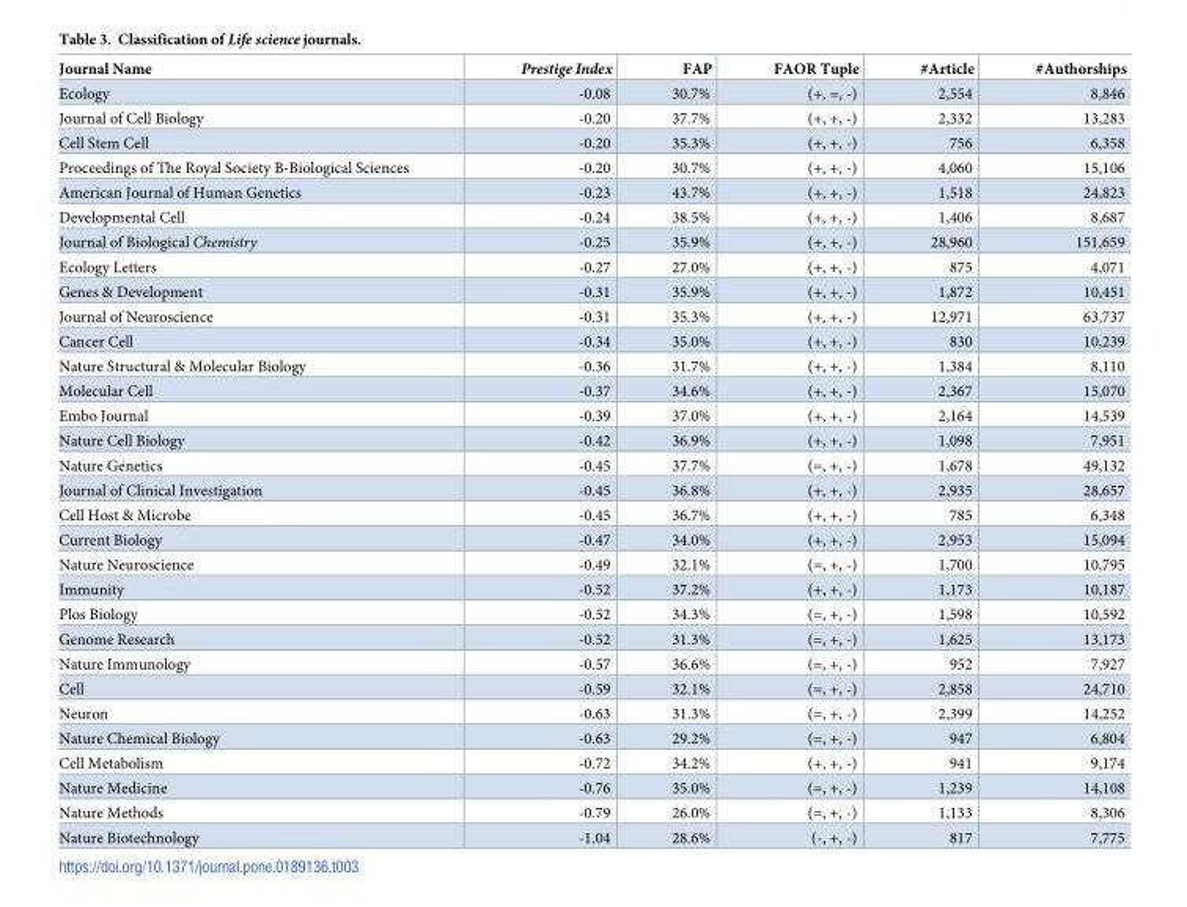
<table><thead><tr><td>Journal Name</td><td>Prestige Index</td><td>FAP</td><td>FAOR Tuple</td><td>#Article</td><td>#Authorships</td></tr></thead><tbody><tr><td>Ecology</td><td>-0.08</td><td>30.7%</td><td>(+, =, -)</td><td>2,554</td><td>8,846</td></tr><tr><td>Journal of Cell Biology</td><td>-0.20</td><td>37.7%</td><td>(+, +, -)</td><td>2,332</td><td>13,283</td></tr><tr><td>Cell Stem Cell</td><td>-0.20</td><td>35.3%</td><td>(+, +, -)</td><td>756</td><td>6,358</td></tr><tr><td>Proceedings of The Royal Society B-Biological Sciences</td><td>-0.20</td><td>30.7%</td><td>(+, +, -)</td><td>4,060</td><td>15,106</td></tr><tr><td>American Journal of Human Genetics</td><td>-0.23</td><td>43.7%</td><td>(+, +, -)</td><td>1,518</td><td>24,823</td></tr><tr><td>Developmental Cell</td><td>-0.24</td><td>38.5%</td><td>(+, +, -)</td><td>1,406</td><td>8,687</td></tr><tr><td>Journal of Biological Chemistry</td><td>-0.25</td><td>35.9%</td><td>(+, +, -)</td><td>28,960</td><td>151,659</td></tr><tr><td>Ecology Letters</td><td>-0.27</td><td>27.0%</td><td>(+, +, -)</td><td>875</td><td>4,071</td></tr><tr><td>Genes &amp; Development</td><td>-0.31</td><td>35.9%</td><td>(+, +, -)</td><td>1,872</td><td>10,451</td></tr><tr><td>Journal of Neuroscience</td><td>-0.31</td><td>35.3%</td><td>(+, +, -)</td><td>12,971</td><td>63,737</td></tr><tr><td>Cancer Cell</td><td>-0.34</td><td>35.0%</td><td>(+, +, -)</td><td>830</td><td>10,239</td></tr><tr><td>Nature Structural &amp; Molecular Biology</td><td>-0.36</td><td>31.7%</td><td>(+, +, -)</td><td>1,384</td><td>8,110</td></tr><tr><td>Molecular Cell</td><td>-0.37</td><td>34.6%</td><td>(+, +, -)</td><td>2,367</td><td>15,070</td></tr><tr><td>Embo Journal</td><td>-0.39</td><td>37.0%</td><td>(+, +, -)</td><td>2,164</td><td>14,539</td></tr><tr><td>Nature Cell Biology</td><td>-0.42</td><td>36.9%</td><td>(+, +, -)</td><td>1,098</td><td>7,951</td></tr><tr><td>Nature Genetics</td><td>-0.45</td><td>37.7%</td><td>(=, +, -)</td><td>1,678</td><td>49,132</td></tr><tr><td>Journal of Clinical Investigation</td><td>-0.45</td><td>36.8%</td><td>(+, +, -)</td><td>2,935</td><td>28,657</td></tr><tr><td>Cell Host &amp; Microbe</td><td>-0.45</td><td>36.7%</td><td>(+, +, -)</td><td>785</td><td>6,348</td></tr><tr><td>Current Biology</td><td>-0.47</td><td>34.0%</td><td>(+, +, -)</td><td>2,953</td><td>15,094</td></tr><tr><td>Nature Neuroscience</td><td>-0.49</td><td>32.1%</td><td>(=, +, -)</td><td>1,700</td><td>10,795</td></tr><tr><td>Immunity</td><td>-0.52</td><td>37.2%</td><td>(+, +, -)</td><td>1,173</td><td>10,187</td></tr><tr><td>Plos Biology</td><td>-0.52</td><td>34.3%</td><td>(=, +, -)</td><td>1,598</td><td>10,592</td></tr><tr><td>Genome Research</td><td>-0.52</td><td>31.3%</td><td>(=, +, -)</td><td>1,625</td><td>13,173</td></tr><tr><td>Nature Immunology</td><td>-0.57</td><td>36.6%</td><td>(=, +, -)</td><td>952</td><td>7,927</td></tr><tr><td>Cell</td><td>-0.59</td><td>32.1%</td><td>(=, +, -)</td><td>2,858</td><td>24,710</td></tr><tr><td>Neuron</td><td>-0.63</td><td>31.3%</td><td>(=, +, -)</td><td>2,399</td><td>14,252</td></tr><tr><td>Nature Chemical Biology</td><td>-0.63</td><td>29.2%</td><td>(=, +, -)</td><td>947</td><td>6,804</td></tr><tr><td>Cell Metabolism</td><td>-0.72</td><td>34.2%</td><td>(+, +, -)</td><td>941</td><td>9,174</td></tr><tr><td>Nature Medicine</td><td>-0.76</td><td>35.0%</td><td>(=, +, -)</td><td>1,239</td><td>14,108</td></tr><tr><td>Nature Methods</td><td>-0.79</td><td>26.0%</td><td>(=, +, -)</td><td>1,133</td><td>8,306</td></tr><tr><td>Nature Biotechnology</td><td>-1.04</td><td>28.6%</td><td>(-, +, -)</td><td>817</td><td>7,775</td></tr></tbody></table>